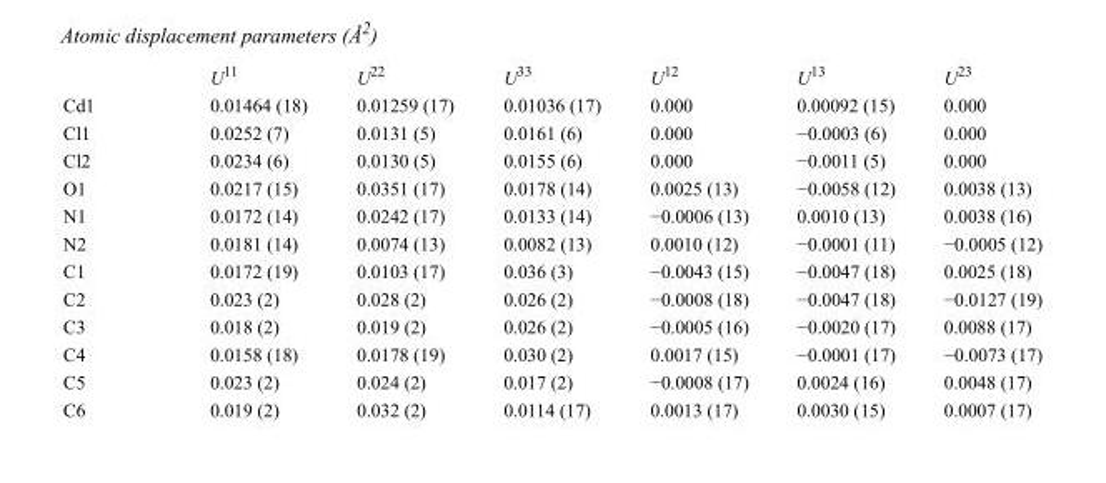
<table><thead><tr><td></td><td>U<sup>11</sup></td><td>U<sup>22</sup></td><td>U<sup>33</sup></td><td>U<sup>12</sup></td><td>U<sup>13</sup></td><td>U<sup>23</sup></td></tr></thead><tbody><tr><td>Cd1</td><td>0.01464 (18)</td><td>0.01259 (17)</td><td>0.01036 (17)</td><td>0.000</td><td>0.00092 (15)</td><td>0.000</td></tr><tr><td>Cl1</td><td>0.0252 (7)</td><td>0.0131 (5)</td><td>0.0161 (6)</td><td>0.000</td><td>−0.0003 (6)</td><td>0.000</td></tr><tr><td>Cl2</td><td>0.0234 (6)</td><td>0.0130 (5)</td><td>0.0155 (6)</td><td>0.000</td><td>−0.0011 (5)</td><td>0.000</td></tr><tr><td>O1</td><td>0.0217 (15)</td><td>0.0351 (17)</td><td>0.0178 (14)</td><td>0.0025 (13)</td><td>−0.0058 (12)</td><td>0.0038 (13)</td></tr><tr><td>N1</td><td>0.0172 (14)</td><td>0.0242 (17)</td><td>0.0133 (14)</td><td>−0.0006 (13)</td><td>0.0010 (13)</td><td>0.0038 (16)</td></tr><tr><td>N2</td><td>0.0181 (14)</td><td>0.0074 (13)</td><td>0.0082 (13)</td><td>0.0010 (12)</td><td>−0.0001 (11)</td><td>−0.0005 (12)</td></tr><tr><td>C1</td><td>0.0172 (19)</td><td>0.0103 (17)</td><td>0.036 (3)</td><td>−0.0043 (15)</td><td>−0.0047 (18)</td><td>0.0025 (18)</td></tr><tr><td>C2</td><td>0.023 (2)</td><td>0.028 (2)</td><td>0.026 (2)</td><td>−0.0008 (18)</td><td>−0.0047 (18)</td><td>−0.0127 (19)</td></tr><tr><td>C3</td><td>0.018 (2)</td><td>0.019 (2)</td><td>0.026 (2)</td><td>−0.0005 (16)</td><td>−0.0020 (17)</td><td>0.0088 (17)</td></tr><tr><td>C4</td><td>0.0158 (18)</td><td>0.0178 (19)</td><td>0.030 (2)</td><td>0.0017 (15)</td><td>−0.0001 (17)</td><td>−0.0073 (17)</td></tr><tr><td>C5</td><td>0.023 (2)</td><td>0.024 (2)</td><td>0.017 (2)</td><td>−0.0008 (17)</td><td>0.0024 (16)</td><td>0.0048 (17)</td></tr><tr><td>C6</td><td>0.019 (2)</td><td>0.032 (2)</td><td>0.0114 (17)</td><td>0.0013 (17)</td><td>0.0030 (15)</td><td>0.0007 (17)</td></tr></tbody></table>